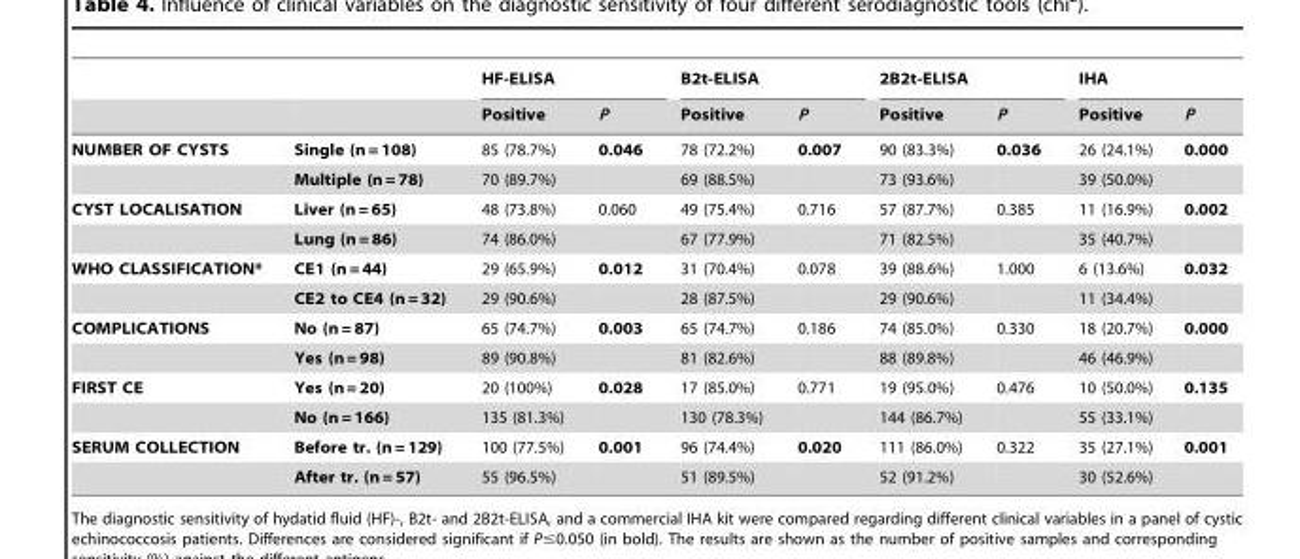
<table><thead><tr><td rowspan="2"></td><td rowspan="2"></td><td colspan="2">HF-ELISA</td><td colspan="2">B2t-ELISA</td><td colspan="2">2B2t-ELISA</td><td colspan="2">IHA</td></tr><tr><td>Positive</td><td>P</td><td>Positive</td><td>P</td><td>Positive</td><td>P</td><td>Positive</td><td>P</td></tr></thead><tbody><tr><td rowspan="2">NUMBER OF CYSTS</td><td>Single (n = 108)</td><td>85 (78.7%)</td><td>0.046</td><td>78 (72.2%)</td><td>0.007</td><td>90 (83.3%)</td><td>0.036</td><td>26 (24.1%)</td><td>0.000</td></tr><tr><td>Multiple (n = 78)</td><td>70 (89.7%)</td><td></td><td>69 (88.5%)</td><td></td><td>73 (93.6%)</td><td></td><td>39 (50.0%)</td><td></td></tr><tr><td rowspan="2">CYST LOCALISATION</td><td>Liver (n = 65)</td><td>48 (73.8%)</td><td>0.060</td><td>49 (75.4%)</td><td>0.716</td><td>57 (87.7%)</td><td>0.385</td><td>11 (16.9%)</td><td>0.002</td></tr><tr><td>Lung (n = 86)</td><td>74 (86.0%)</td><td></td><td>67 (77.9%)</td><td></td><td>71 (82.5%)</td><td></td><td>35 (40.7%)</td><td></td></tr><tr><td rowspan="2">WHO CLASSIFICATION*</td><td>CE1 (n = 44)</td><td>29 (65.9%)</td><td>0.012</td><td>31 (70.4%)</td><td>0.078</td><td>39 (88.6%)</td><td>1.000</td><td>6 (13.6%)</td><td>0.032</td></tr><tr><td>CE2 to CE4 (n = 32)</td><td>29 (90.6%)</td><td></td><td>28 (87.5%)</td><td></td><td>29 (90.6%)</td><td></td><td>11 (34.4%)</td><td></td></tr><tr><td rowspan="2">COMPLICATIONS</td><td>No (n = 87)</td><td>65 (74.7%)</td><td>0.003</td><td>65 (74.7%)</td><td>0.186</td><td>74 (85.0%)</td><td>0.330</td><td>18 (20.7%)</td><td>0.000</td></tr><tr><td>Yes (n = 98)</td><td>89 (90.8%)</td><td></td><td>81 (82.6%)</td><td></td><td>88 (89.8%)</td><td></td><td>46 (46.9%)</td><td></td></tr><tr><td rowspan="2">FIRST CE</td><td>Yes (n = 20)</td><td>20 (100%)</td><td>0.028</td><td>17 (85.0%)</td><td>0.771</td><td>19 (95.0%)</td><td>0.476</td><td>10 (50.0%)</td><td>0.135</td></tr><tr><td>No (n = 166)</td><td>135 (81.3%)</td><td></td><td>130 (78.3%)</td><td></td><td>144 (86.7%)</td><td></td><td>55 (33.1%)</td><td></td></tr><tr><td rowspan="2">SERUM COLLECTION</td><td>Before tr. (n = 129)</td><td>100 (77.5%)</td><td>0.001</td><td>96 (74.4%)</td><td>0.020</td><td>111 (86.0%)</td><td>0.322</td><td>35 (27.1%)</td><td>0.001</td></tr><tr><td>After tr. (n = 57)</td><td>55 (96.5%)</td><td></td><td>51 (89.5%)</td><td></td><td>52 (91.2%)</td><td></td><td>30 (52.6%)</td><td></td></tr></tbody></table>